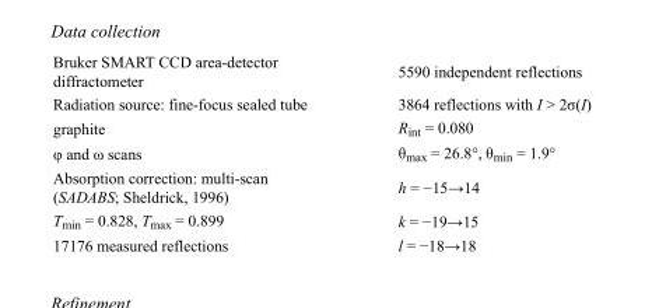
<table><tbody><tr><td>Bruker SMART CCD area-detector diffractometer</td><td>5590 independent reflections</td></tr><tr><td>Radiation source: fine-focus sealed tube</td><td>3864 reflections with I &gt; 2σ(I)</td></tr><tr><td>graphite</td><td>R<sub>int</sub> = 0.080</td></tr><tr><td>φ and ω scans</td><td>θ<sub>max</sub> = 26.8°, θ<sub>min</sub> = 1.9°</td></tr><tr><td>Absorption correction: multi-scan (SADABS; Sheldrick, 1996)</td><td>h = −15→14</td></tr><tr><td>T<sub>min</sub> = 0.828, T<sub>max</sub> = 0.899</td><td>k = −19→15</td></tr><tr><td>17176 measured reflections</td><td>l = −18→18</td></tr></tbody></table>